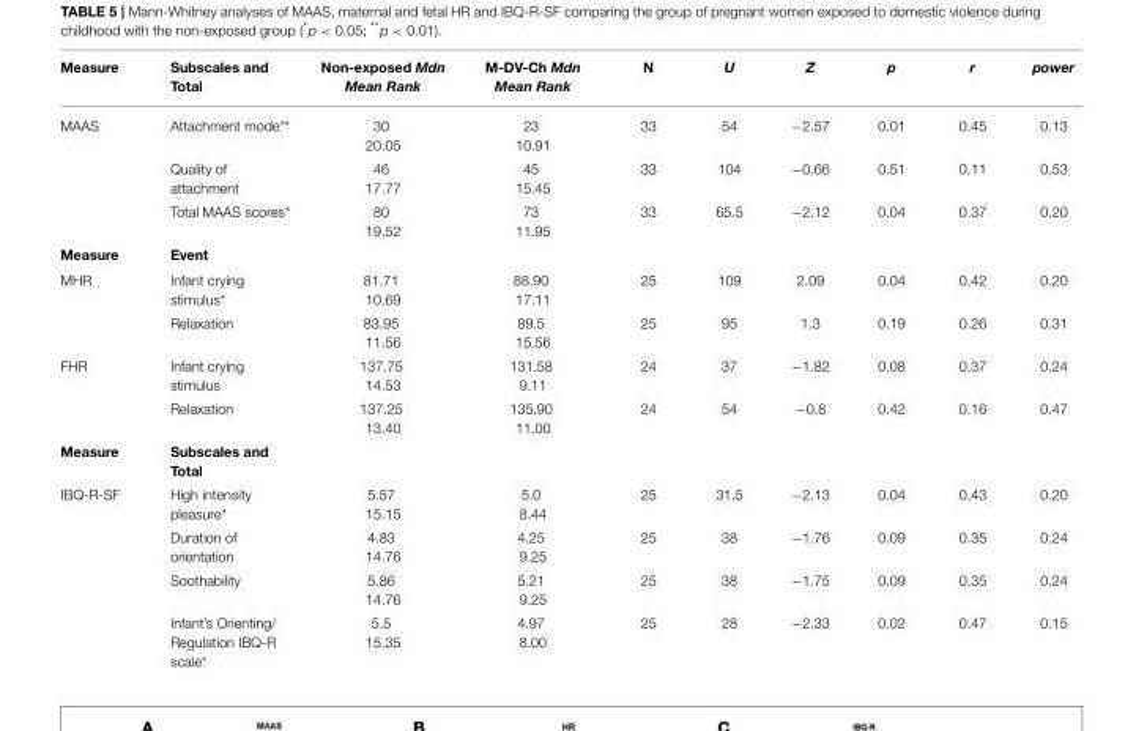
<table><thead><tr><td>Measure</td><td>Subscales and Total</td><td>Non-exposed Mdn Mean Rank</td><td>M-DV-Ch Mdn Mean Rank</td><td>N</td><td>U</td><td>Z</td><td>p</td><td>r</td><td>power</td></tr></thead><tbody><tr><td rowspan="3">MAAS</td><td>Attachment mode**</td><td>30 20.05</td><td>23 10.91</td><td>33</td><td>54</td><td>−2.57</td><td>0.01</td><td>0.45</td><td>0.13</td></tr><tr><td>Quality of attachment</td><td>46 17.77</td><td>45 15.45</td><td>33</td><td>104</td><td>−0.66</td><td>0.51</td><td>0.11</td><td>0.53</td></tr><tr><td>Total MAAS scores*</td><td>80 19.52</td><td>73 11.95</td><td>33</td><td>65.5</td><td>−2.12</td><td>0.04</td><td>0.37</td><td>0.20</td></tr><tr><td>Measure</td><td>Event</td><td></td><td></td><td></td><td></td><td></td><td></td><td></td><td></td></tr><tr><td rowspan="2">MHR</td><td>Infant crying stimulus*</td><td>81.71 10.69</td><td>88.90 17.11</td><td>25</td><td>109</td><td>2.09</td><td>0.04</td><td>0.42</td><td>0.20</td></tr><tr><td>Relaxation</td><td>83.95 11.56</td><td>89.5 15.56</td><td>25</td><td>95</td><td>1.3</td><td>0.19</td><td>0.26</td><td>0.31</td></tr><tr><td rowspan="2">FHR</td><td>Infant crying stimulus</td><td>137.75 14.53</td><td>131.58 9.11</td><td>24</td><td>37</td><td>−1.82</td><td>0.08</td><td>0.37</td><td>0.24</td></tr><tr><td>Relaxation</td><td>137.25 13.40</td><td>135.90 11.00</td><td>24</td><td>54</td><td>−0.8</td><td>0.42</td><td>0.16</td><td>0.47</td></tr><tr><td>Measure</td><td>Subscales and Total</td><td></td><td></td><td></td><td></td><td></td><td></td><td></td><td></td></tr><tr><td rowspan="4">IBQ-R-SF</td><td>High intensity pleasure*</td><td>5.57 15.15</td><td>5.0 8.44</td><td>25</td><td>31.5</td><td>−2.13</td><td>0.04</td><td>0.43</td><td>0.20</td></tr><tr><td>Duration of orientation</td><td>4.83 14.76</td><td>4.25 9.25</td><td>25</td><td>38</td><td>−1.76</td><td>0.09</td><td>0.35</td><td>0.24</td></tr><tr><td>Soothability</td><td>5.86 14.76</td><td>5.21 9.25</td><td>25</td><td>38</td><td>−1.75</td><td>0.09</td><td>0.35</td><td>0.24</td></tr><tr><td>Infant’s Orienting/ Regulation IBQ-R scale*</td><td>5.5 15.35</td><td>4.97 8.00</td><td>25</td><td>28</td><td>−2.33</td><td>0.02</td><td>0.47</td><td>0.15</td></tr></tbody></table>